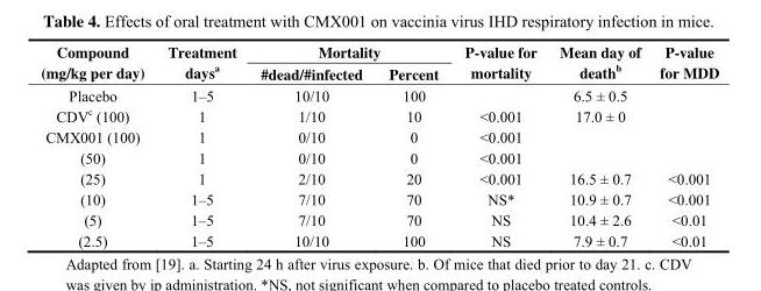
<table><thead><tr><td rowspan="2">Compound (mg/kg per day)</td><td rowspan="2">Treatment days<sup>a</sup></td><td colspan="2">Mortality</td><td rowspan="2">P-value for mortality</td><td rowspan="2">Mean day of death<sup>b</sup></td><td rowspan="2">P-value for MDD</td></tr><tr><td>#dead/#infected</td><td>Percent</td></tr></thead><tbody><tr><td>Placebo</td><td>1–5</td><td>10/10</td><td>100</td><td></td><td>6.5 ± 0.5</td><td></td></tr><tr><td>CDV<sup>c</sup> (100)</td><td>1</td><td>1/10</td><td>10</td><td>&lt;0.001</td><td>17.0 ± 0</td><td></td></tr><tr><td>CMX001 (100)</td><td>1</td><td>0/10</td><td>0</td><td>&lt;0.001</td><td></td><td></td></tr><tr><td>(50)</td><td>1</td><td>0/10</td><td>0</td><td>&lt;0.001</td><td></td><td></td></tr><tr><td>(25)</td><td>1</td><td>2/10</td><td>20</td><td>&lt;0.001</td><td>16.5 ± 0.7</td><td>&lt;0.001</td></tr><tr><td>(10)</td><td>1–5</td><td>7/10</td><td>70</td><td>NS*</td><td>10.9 ± 0.7</td><td>&lt;0.001</td></tr><tr><td>(5)</td><td>1–5</td><td>7/10</td><td>70</td><td>NS</td><td>10.4 ± 2.6</td><td>&lt;0.01</td></tr><tr><td>(2.5)</td><td>1–5</td><td>10/10</td><td>100</td><td>NS</td><td>7.9 ± 0.7</td><td>&lt;0.01</td></tr></tbody></table>